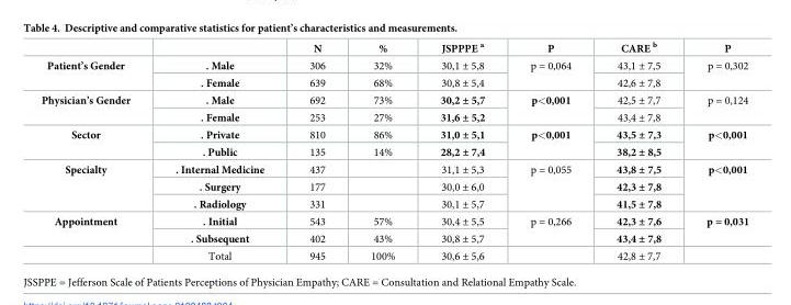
<table><thead><tr><td></td><td></td><td>N</td><td>%</td><td>JSPPPE <sup>a</sup></td><td>P</td><td>CARE <sup>b</sup></td><td>P</td></tr></thead><tbody><tr><td rowspan="2">Patient’s Gender</td><td>. Male</td><td>306</td><td>32%</td><td>30,1 ± 5,8</td><td rowspan="2">p = 0,064</td><td>43,1 ± 7,5</td><td rowspan="2">p = 0,302</td></tr><tr><td>. Female</td><td>639</td><td>68%</td><td>30,8 ± 5,4</td><td>42,6 ± 7,8</td></tr><tr><td rowspan="2">Physician’s Gender</td><td>. Male</td><td>692</td><td>73%</td><td>30,2 ± 5,7</td><td rowspan="2">p&lt;0,001</td><td>42,5 ± 7,7</td><td rowspan="2">p = 0,124</td></tr><tr><td>. Female</td><td>253</td><td>27%</td><td>31,6 ± 5,2</td><td>43,4 ± 7,8</td></tr><tr><td rowspan="2">Sector</td><td>. Private</td><td>810</td><td>86%</td><td>31,0 ± 5,1</td><td rowspan="2">p&lt;0,001</td><td>43,5 ± 7,3</td><td rowspan="2">p&lt;0,001</td></tr><tr><td>. Public</td><td>135</td><td>14%</td><td>28,2 ± 7,4</td><td>38,2 ± 8,5</td></tr><tr><td rowspan="3">Specialty</td><td>. Internal Medicine</td><td>437</td><td></td><td>31,1 ± 5,3</td><td rowspan="3">p = 0,055</td><td>43,8 ± 7,5</td><td rowspan="3">p&lt;0,001</td></tr><tr><td>. Surgery</td><td>177</td><td></td><td>30,0 ± 6,0</td><td>42,3 ± 7,8</td></tr><tr><td>. Radiology</td><td>331</td><td></td><td>30,1 ± 5,7</td><td>41,5 ± 7,8</td></tr><tr><td rowspan="3">Appointment</td><td>. Initial</td><td>543</td><td>57%</td><td>30,4 ± 5,5</td><td rowspan="2">p = 0,266</td><td>42,3 ± 7,6</td><td rowspan="2">p = 0,031</td></tr><tr><td>. Subsequent</td><td>402</td><td>43%</td><td>30,8 ± 5,7</td><td>43,4 ± 7,8</td></tr><tr><td>Total</td><td>945</td><td>100%</td><td>30,6 ± 5,6</td><td></td><td>42,8 ± 7,7</td><td></td></tr></tbody></table>